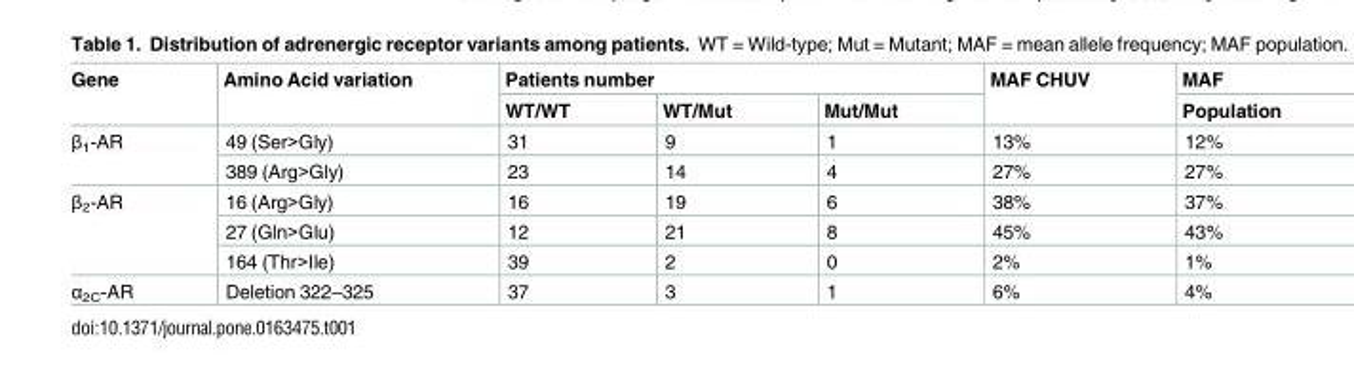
<table><thead><tr><td rowspan="2">Gene</td><td rowspan="2">Amino Acid variation</td><td colspan="3">Patients number</td><td rowspan="2">MAF CHUV</td><td rowspan="2">MAF Population</td></tr><tr><td>WT/WT</td><td>WT/Mut</td><td>Mut/Mut</td></tr></thead><tbody><tr><td rowspan="2">β<sub>1</sub>-AR</td><td>49 (Ser&gt;Gly)</td><td>31</td><td>9</td><td>1</td><td>13%</td><td>12%</td></tr><tr><td>389 (Arg&gt;Gly)</td><td>23</td><td>14</td><td>4</td><td>27%</td><td>27%</td></tr><tr><td rowspan="3">β<sub>2</sub>-AR</td><td>16 (Arg&gt;Gly)</td><td>16</td><td>19</td><td>6</td><td>38%</td><td>37%</td></tr><tr><td>27 (Gln&gt;Glu)</td><td>12</td><td>21</td><td>8</td><td>45%</td><td>43%</td></tr><tr><td>164 (Thr&gt;Ile)</td><td>39</td><td>2</td><td>0</td><td>2%</td><td>1%</td></tr><tr><td>α<sub>2C</sub>-AR</td><td>Deletion 322–325</td><td>37</td><td>3</td><td>1</td><td>6%</td><td>4%</td></tr></tbody></table>